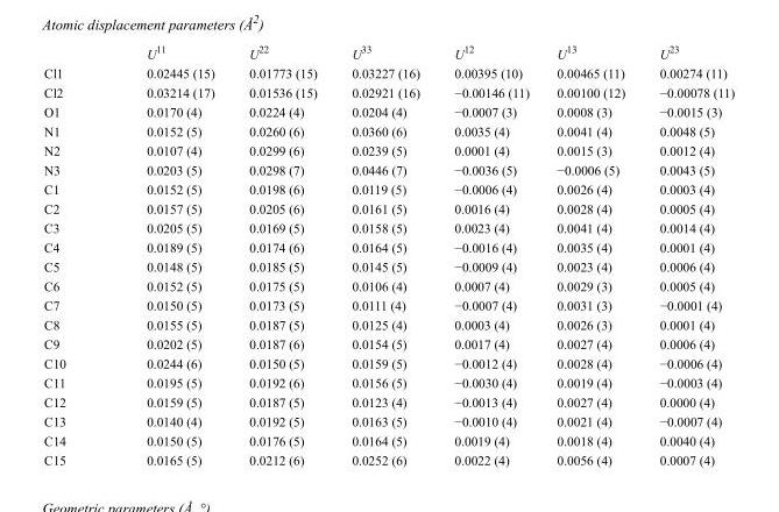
<table><thead><tr><td></td><td>U<sup>11</sup></td><td>U<sup>22</sup></td><td>U<sup>33</sup></td><td>U<sup>12</sup></td><td>U<sup>13</sup></td><td>U<sup>23</sup></td></tr></thead><tbody><tr><td>Cl1</td><td>0.02445 (15)</td><td>0.01773 (15)</td><td>0.03227 (16)</td><td>0.00395 (10)</td><td>0.00465 (11)</td><td>0.00274 (11)</td></tr><tr><td>Cl2</td><td>0.03214 (17)</td><td>0.01536 (15)</td><td>0.02921 (16)</td><td>−0.00146 (11)</td><td>0.00100 (12)</td><td>−0.00078 (11)</td></tr><tr><td>O1</td><td>0.0170 (4)</td><td>0.0224 (4)</td><td>0.0204 (4)</td><td>−0.0007 (3)</td><td>0.0008 (3)</td><td>−0.0015 (3)</td></tr><tr><td>N1</td><td>0.0152 (5)</td><td>0.0260 (6)</td><td>0.0360 (6)</td><td>0.0035 (4)</td><td>0.0041 (4)</td><td>0.0048 (5)</td></tr><tr><td>N2</td><td>0.0107 (4)</td><td>0.0299 (6)</td><td>0.0239 (5)</td><td>0.0001 (4)</td><td>0.0015 (3)</td><td>0.0012 (4)</td></tr><tr><td>N3</td><td>0.0203 (5)</td><td>0.0298 (7)</td><td>0.0446 (7)</td><td>−0.0036 (5)</td><td>−0.0006 (5)</td><td>0.0043 (5)</td></tr><tr><td>C1</td><td>0.0152 (5)</td><td>0.0198 (6)</td><td>0.0119 (5)</td><td>−0.0006 (4)</td><td>0.0026 (4)</td><td>0.0003 (4)</td></tr><tr><td>C2</td><td>0.0157 (5)</td><td>0.0205 (6)</td><td>0.0161 (5)</td><td>0.0016 (4)</td><td>0.0028 (4)</td><td>0.0005 (4)</td></tr><tr><td>C3</td><td>0.0205 (5)</td><td>0.0169 (5)</td><td>0.0158 (5)</td><td>0.0023 (4)</td><td>0.0041 (4)</td><td>0.0014 (4)</td></tr><tr><td>C4</td><td>0.0189 (5)</td><td>0.0174 (6)</td><td>0.0164 (5)</td><td>−0.0016 (4)</td><td>0.0035 (4)</td><td>0.0001 (4)</td></tr><tr><td>C5</td><td>0.0148 (5)</td><td>0.0185 (5)</td><td>0.0145 (5)</td><td>−0.0009 (4)</td><td>0.0023 (4)</td><td>0.0006 (4)</td></tr><tr><td>C6</td><td>0.0152 (5)</td><td>0.0175 (5)</td><td>0.0106 (4)</td><td>0.0007 (4)</td><td>0.0029 (3)</td><td>0.0005 (4)</td></tr><tr><td>C7</td><td>0.0150 (5)</td><td>0.0173 (5)</td><td>0.0111 (4)</td><td>−0.0007 (4)</td><td>0.0031 (3)</td><td>−0.0001 (4)</td></tr><tr><td>C8</td><td>0.0155 (5)</td><td>0.0187 (5)</td><td>0.0125 (4)</td><td>0.0003 (4)</td><td>0.0026 (3)</td><td>0.0001 (4)</td></tr><tr><td>C9</td><td>0.0202 (5)</td><td>0.0187 (6)</td><td>0.0154 (5)</td><td>0.0017 (4)</td><td>0.0027 (4)</td><td>0.0006 (4)</td></tr><tr><td>C10</td><td>0.0244 (6)</td><td>0.0150 (5)</td><td>0.0159 (5)</td><td>−0.0012 (4)</td><td>0.0028 (4)</td><td>−0.0006 (4)</td></tr><tr><td>C11</td><td>0.0195 (5)</td><td>0.0192 (6)</td><td>0.0156 (5)</td><td>−0.0030 (4)</td><td>0.0019 (4)</td><td>−0.0003 (4)</td></tr><tr><td>C12</td><td>0.0159 (5)</td><td>0.0187 (5)</td><td>0.0123 (4)</td><td>−0.0013 (4)</td><td>0.0027 (4)</td><td>0.0000 (4)</td></tr><tr><td>C13</td><td>0.0140 (4)</td><td>0.0192 (5)</td><td>0.0163 (5)</td><td>−0.0010 (4)</td><td>0.0021 (4)</td><td>−0.0007 (4)</td></tr><tr><td>C14</td><td>0.0150 (5)</td><td>0.0176 (5)</td><td>0.0164 (5)</td><td>0.0019 (4)</td><td>0.0018 (4)</td><td>0.0040 (4)</td></tr><tr><td>C15</td><td>0.0165 (5)</td><td>0.0212 (6)</td><td>0.0252 (6)</td><td>0.0022 (4)</td><td>0.0056 (4)</td><td>0.0007 (4)</td></tr></tbody></table>